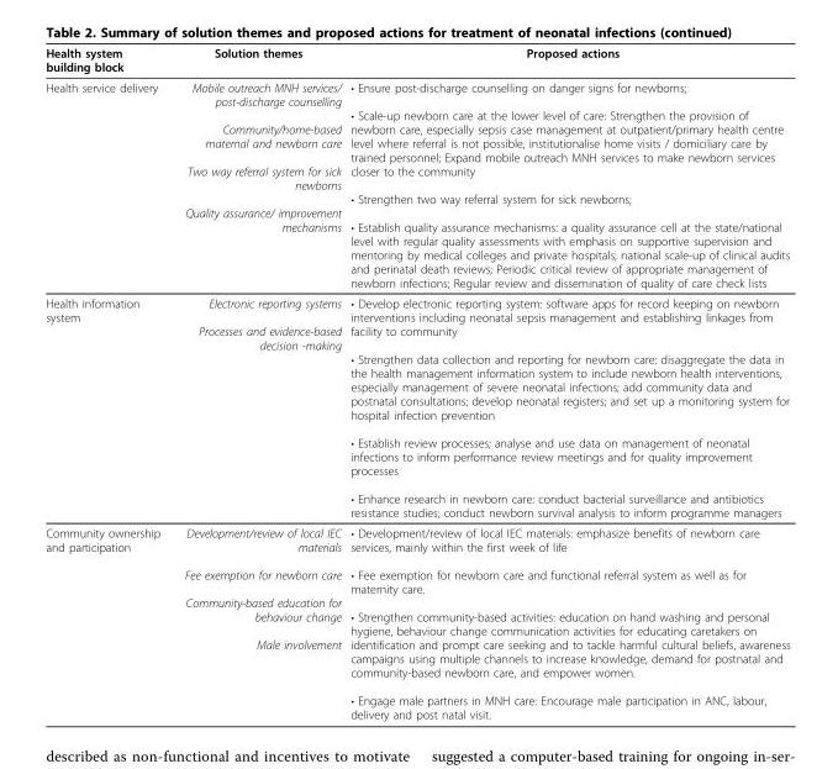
<table><thead><tr><td>Health system building block</td><td>Solution themes</td><td>Proposed actions</td></tr></thead><tbody><tr><td>Health service delivery</td><td>Mobile outreach MNH services/ post-discharge counselling Community/home-based maternal and newborn care Two way referral system for sick newborns Quality assurance/ improvement mechanisms</td><td>• Ensure post-discharge counselling on danger signs for newborns; • Scale-up newborn care at the lower level of care: Strengthen the provision of newborn care, especially sepsis case management at outpatient/primary health centre level where referral is not possible, institutionalise home visits / domiciliary care by trained personnel; Expand mobile outreach MNH services to make newborn services closer to the community • Strengthen two way referral system for sick newborns; • Establish quality assurance mechanisms: a quality assurance cell at the state/national level with regular quality assessments with emphasis on supportive supervision and mentoring by medical colleges and private hospitals; national scale-up of clinical audits and perinatal death reviews; Periodic critical review of appropriate management of newborn infections; Regular review and dissemination of quality of care check lists</td></tr><tr><td>Health information system</td><td>Electronic reporting systems Processes and evidence-based decision -making</td><td>• Develop electronic reporting system: software apps for record keeping on newborn interventions including neonatal sepsis management and establishing linkages from facility to community • Strengthen data collection and reporting for newborn care: disaggregate the data in the health management information system to include newborn health interventions, especially management of severe neonatal infections; add community data and postnatal consultations; develop neonatal registers; and set up a monitoring system for hospital infection prevention • Establish review processes; analyse and use data on management of neonatal infections to inform performance review meetings and for quality improvement processes • Enhance research in newborn care: conduct bacterial surveillance and antibiotics resistance studies; conduct newborn survival analysis to inform programme managers</td></tr><tr><td>Community ownership and participation</td><td>Development/review of local IEC materials Fee exemption for newborn care Community-based education for behaviour change Male involvement</td><td>• Development/review of local IEC materials: emphasize benefits of newborn care services, mainly within the first week of life • Fee exemption for newborn care and functional referral system as well as for maternity care. • Strengthen community-based activities: education on hand washing and personal hygiene, behaviour change communication activities for educating caretakers on identification and prompt care seeking and to tackle harmful cultural beliefs, awareness campaigns using multiple channels to increase knowledge, demand for postnatal and community-based newborn care, and empower women. • Engage male partners in MNH care: Encourage male participation in ANC, labour, delivery and post natal visit.</td></tr></tbody></table>